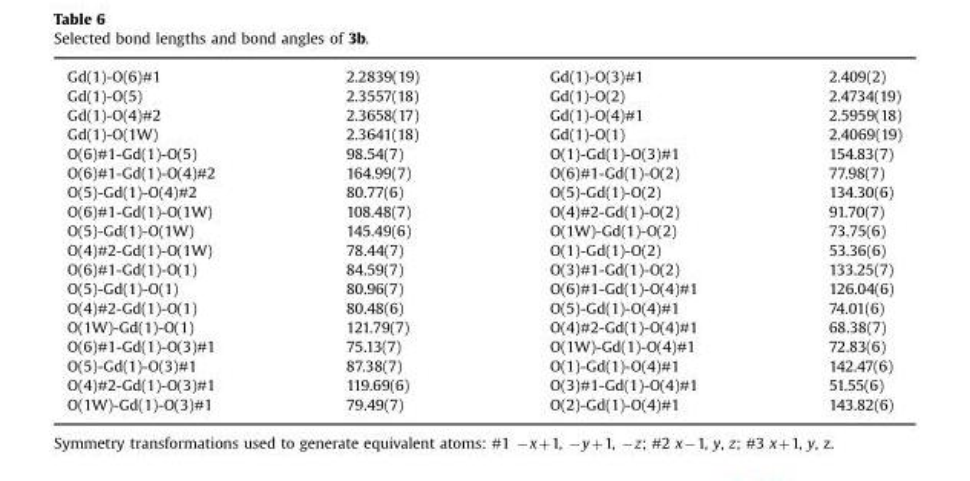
<table><tbody><tr><td>Gd(1)-O(6)#1</td><td>2.2839(19)</td><td>Gd(1)-O(3)#1</td><td>2.409(2)</td></tr><tr><td>Gd(1)-O(5)</td><td>2.3557(18)</td><td>Gd(1)-O(2)</td><td>2.4734(19)</td></tr><tr><td>Gd(1)-O(4)#2</td><td>2.3658(17)</td><td>Gd(1)-O(4)#1</td><td>2.5959(18)</td></tr><tr><td>Gd(1)-O(1W)</td><td>2.3641(18)</td><td>Gd(1)-O(1)</td><td>2.4069(19)</td></tr><tr><td>O(6)#1-Gd(1)-O(5)</td><td>98.54(7)</td><td>O(1)-Gd(1)-O(3)#1</td><td>154.83(7)</td></tr><tr><td>O(6)#1-Gd(1)-O(4)#2</td><td>164.99(7)</td><td>O(6)#1-Gd(1)-O(2)</td><td>77.98(7)</td></tr><tr><td>O(5)-Gd(1)-O(4)#2</td><td>80.77(6)</td><td>O(5)-Gd(1)-O(2)</td><td>134.30(6)</td></tr><tr><td>O(6)#1-Gd(1)-O(1W)</td><td>108.48(7)</td><td>O(4)#2-Gd(1)-O(2)</td><td>91.70(7)</td></tr><tr><td>O(5)-Gd(1)-O(1W)</td><td>145.49(6)</td><td>O(1W)-Gd(1)-O(2)</td><td>73.75(6)</td></tr><tr><td>O(4)#2-Gd(1)-O(1W)</td><td>78.44(7)</td><td>O(1)-Gd(1)-O(2)</td><td>53.36(6)</td></tr><tr><td>O(6)#1-Gd(1)-O(1)</td><td>84.59(7)</td><td>O(3)#1-Gd(1)-O(2)</td><td>133.25(7)</td></tr><tr><td>O(5)-Gd(1)-O(1)</td><td>80.96(7)</td><td>O(6)#1-Gd(1)-O(4)#1</td><td>126.04(6)</td></tr><tr><td>O(4)#2-Gd(1)-O(1)</td><td>80.48(6)</td><td>O(5)-Gd(1)-O(4)#1</td><td>74.01(6)</td></tr><tr><td>O(1W)-Gd(1)-O(1)</td><td>121.79(7)</td><td>O(4)#2-Gd(1)-O(4)#1</td><td>68.38(7)</td></tr><tr><td>O(6)#1-Gd(1)-O(3)#1</td><td>75.13(7)</td><td>O(1W)-Gd(1)-O(4)#1</td><td>72.83(6)</td></tr><tr><td>O(5)-Gd(1)-O(3)#1</td><td>87.38(7)</td><td>O(1)-Gd(1)-O(4)#1</td><td>142.47(6)</td></tr><tr><td>O(4)#2-Gd(1)-O(3)#1</td><td>119.69(6)</td><td>O(3)#1-Gd(1)-O(4)#1</td><td>51.55(6)</td></tr><tr><td>O(1W)-Gd(1)-O(3)#1</td><td>79.49(7)</td><td>O(2)-Gd(1)-O(4)#1</td><td>143.82(6)</td></tr></tbody></table>